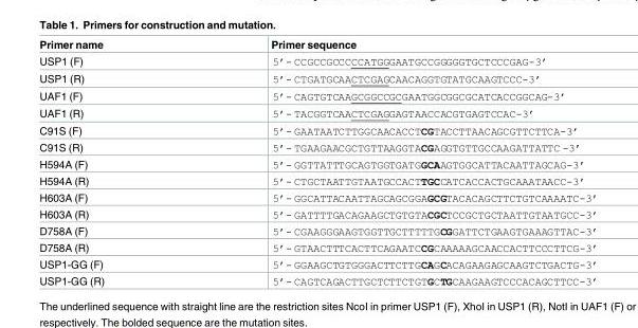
<table><thead><tr><td>Primer name</td><td>Primer sequence</td></tr></thead><tbody><tr><td>USP1 (F)</td><td>5’- CCGCCGCCCCCATGGGAATGCCGGGGGTGCTCCCGAG-3’</td></tr><tr><td>USP1 (R)</td><td>5’- CTGATGCAACTCGAGCAACAGGTGTATGCAAGTCCC-3’</td></tr><tr><td>UAF1 (F)</td><td>5’- CAGTGTCAAGCGGCCGCGAATGGCGGCGCATCACCGGCAG-3’</td></tr><tr><td>UAF1 (R)</td><td>5’- TACGGTCAACTCGAGGAGTAACCACGTGAGTCCAC-3’</td></tr><tr><td>C91S (F)</td><td>5’- GAATAATCTTGGCAACACCTCGTACCTTAACAGCGTTCTTCA-3’</td></tr><tr><td>C91S (R)</td><td>5’- TGAAGAACGCTGTTAAGGTACGAGGTGTTGCCAAGATTATTC -3’</td></tr><tr><td>H594A (F)</td><td>5’- GGTTATTTGCAGTGGTGATGGCAAGTGGCATTACAATTAGCAG-3’</td></tr><tr><td>H594A (R)</td><td>5’- CTGCTAATTGTAATGCCACTTGCCATCACCACTGCAAATAACC-3’</td></tr><tr><td>H603A (F)</td><td>5’- GGCATTACAATTAGCAGCGGAGCGTACACAGCTTCTGTCAAAATC-3’</td></tr><tr><td>H603A (R)</td><td>5’- GATTTTGACAGAAGCTGTGTACGCTCCGCTGCTAATTGTAATGCC-3’</td></tr><tr><td>D758A (F)</td><td>5’- CGAAGGGAAGTGGTTGCTTTTTGCGGATTCTGAAGTGAAAGTTAC-3’</td></tr><tr><td>D758A (R)</td><td>5’- GTAACTTTCACTTCAGAATCCGCAAAAAGCAACCACTTCCCTTCG-3’</td></tr><tr><td>USP1-GG (F)</td><td>5’- GGAAGCTGTGGGACTTCTTGCAGCACAGAAGAGCAAGTCTGACTG-3’</td></tr><tr><td>USP1-GG (R)</td><td>5’- CAGTCAGACTTGCTCTTCTGTGCTGCAAGAAGTCCCACAGCTTCC-3’</td></tr></tbody></table>